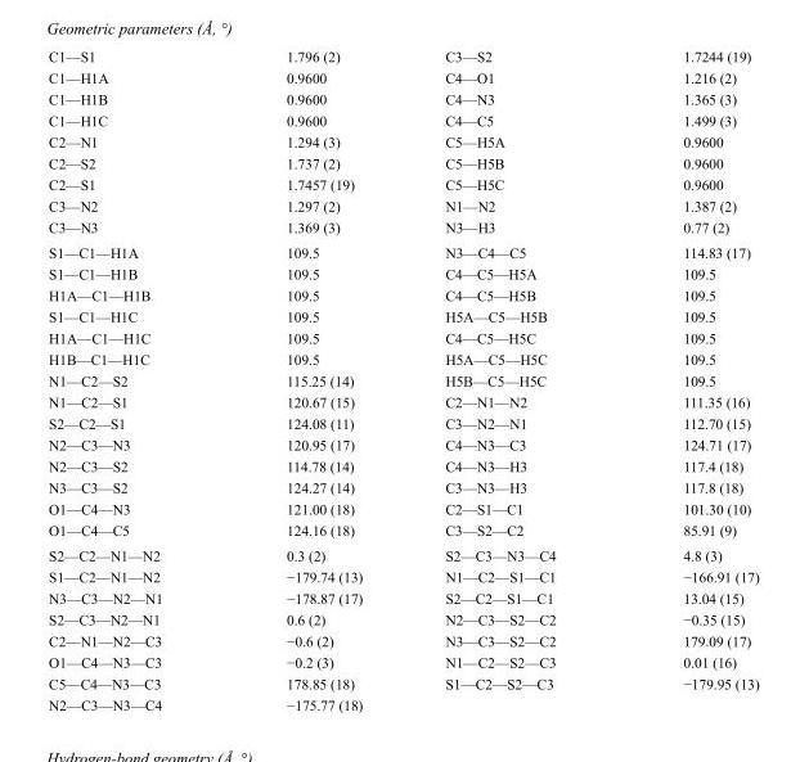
<table><tbody><tr><td>C1—S1</td><td>1.796 (2)</td><td>C3—S2</td><td>1.7244 (19)</td></tr><tr><td>C1—H1A</td><td>0.9600</td><td>C4—O1</td><td>1.216 (2)</td></tr><tr><td>C1—H1B</td><td>0.9600</td><td>C4—N3</td><td>1.365 (3)</td></tr><tr><td>C1—H1C</td><td>0.9600</td><td>C4—C5</td><td>1.499 (3)</td></tr><tr><td>C2—N1</td><td>1.294 (3)</td><td>C5—H5A</td><td>0.9600</td></tr><tr><td>C2—S2</td><td>1.737 (2)</td><td>C5—H5B</td><td>0.9600</td></tr><tr><td>C2—S1</td><td>1.7457 (19)</td><td>C5—H5C</td><td>0.9600</td></tr><tr><td>C3—N2</td><td>1.297 (2)</td><td>N1—N2</td><td>1.387 (2)</td></tr><tr><td>C3—N3</td><td>1.369 (3)</td><td>N3—H3</td><td>0.77 (2)</td></tr><tr><td>S1—C1—H1A</td><td>109.5</td><td>N3—C4—C5</td><td>114.83 (17)</td></tr><tr><td>S1—C1—H1B</td><td>109.5</td><td>C4—C5—H5A</td><td>109.5</td></tr><tr><td>H1A—C1—H1B</td><td>109.5</td><td>C4—C5—H5B</td><td>109.5</td></tr><tr><td>S1—C1—H1C</td><td>109.5</td><td>H5A—C5—H5B</td><td>109.5</td></tr><tr><td>H1A—C1—H1C</td><td>109.5</td><td>C4—C5—H5C</td><td>109.5</td></tr><tr><td>H1B—C1—H1C</td><td>109.5</td><td>H5A—C5—H5C</td><td>109.5</td></tr><tr><td>N1—C2—S2</td><td>115.25 (14)</td><td>H5B—C5—H5C</td><td>109.5</td></tr><tr><td>N1—C2—S1</td><td>120.67 (15)</td><td>C2—N1—N2</td><td>111.35 (16)</td></tr><tr><td>S2—C2—S1</td><td>124.08 (11)</td><td>C3—N2—N1</td><td>112.70 (15)</td></tr><tr><td>N2—C3—N3</td><td>120.95 (17)</td><td>C4—N3—C3</td><td>124.71 (17)</td></tr><tr><td>N2—C3—S2</td><td>114.78 (14)</td><td>C4—N3—H3</td><td>117.4 (18)</td></tr><tr><td>N3—C3—S2</td><td>124.27 (14)</td><td>C3—N3—H3</td><td>117.8 (18)</td></tr><tr><td>O1—C4—N3</td><td>121.00 (18)</td><td>C2—S1—C1</td><td>101.30 (10)</td></tr><tr><td>O1—C4—C5</td><td>124.16 (18)</td><td>C3—S2—C2</td><td>85.91 (9)</td></tr><tr><td>S2—C2—N1—N2</td><td>0.3 (2)</td><td>S2—C3—N3—C4</td><td>4.8 (3)</td></tr><tr><td>S1—C2—N1—N2</td><td>−179.74 (13)</td><td>N1—C2—S1—C1</td><td>−166.91 (17)</td></tr><tr><td>N3—C3—N2—N1</td><td>−178.87 (17)</td><td>S2—C2—S1—C1</td><td>13.04 (15)</td></tr><tr><td>S2—C3—N2—N1</td><td>0.6 (2)</td><td>N2—C3—S2—C2</td><td>−0.35 (15)</td></tr><tr><td>C2—N1—N2—C3</td><td>−0.6 (2)</td><td>N3—C3—S2—C2</td><td>179.09 (17)</td></tr><tr><td>O1—C4—N3—C3</td><td>−0.2 (3)</td><td>N1—C2—S2—C3</td><td>0.01 (16)</td></tr><tr><td>C5—C4—N3—C3</td><td>178.85 (18)</td><td>S1—C2—S2—C3</td><td>−179.95 (13)</td></tr><tr><td>N2—C3—N3—C4</td><td>−175.77 (18)</td><td></td><td></td></tr></tbody></table>